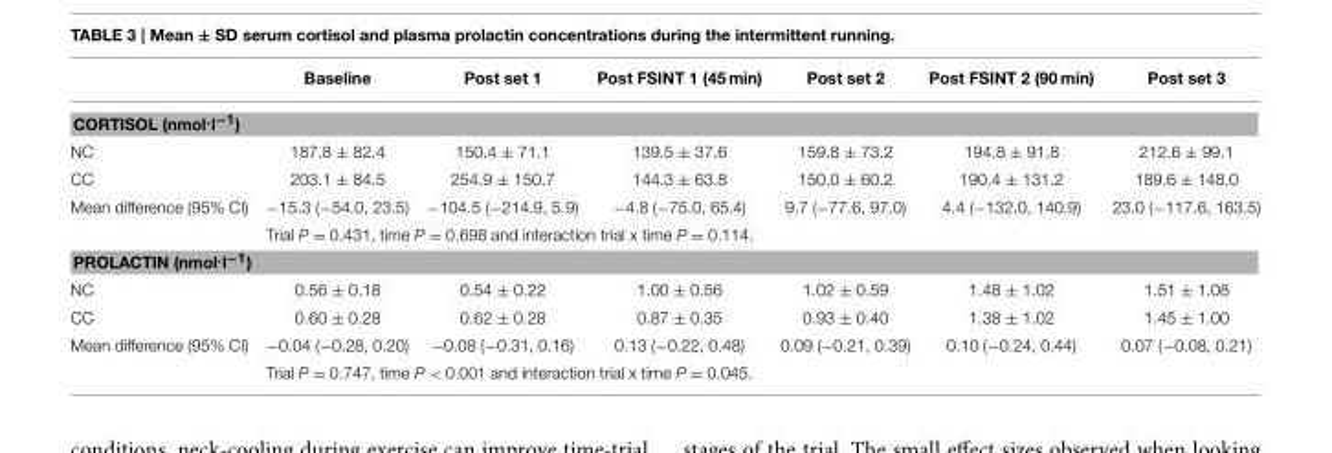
<table><thead><tr><td></td><td>Baseline</td><td>Post set 1</td><td>Post FSINT 1 (45 min)</td><td>Post set 2</td><td>Post FSINT 2 (90 min)</td><td>Post set 3</td></tr></thead><tbody><tr><td colspan="7">CORTISOL (nmol.l−1)</td></tr><tr><td>NC</td><td>187.8 ± 82.4</td><td>150.4 ± 71.1</td><td>139.5 ± 37.6</td><td>159.8 ± 73.2</td><td>194.8 ± 91.8</td><td>212.6 ± 99.1</td></tr><tr><td>CC</td><td>203.1 ± 84.5</td><td>254.9 ± 150.7</td><td>144.3 ± 63.8</td><td>150.0 ± 60.2</td><td>190.4 ± 131.2</td><td>189.6 ± 148.0</td></tr><tr><td rowspan="2">Mean difference (95% CI)</td><td>−15.3 (−54.0, 23.5)</td><td>−104.5 (−214.9, 5.9)</td><td>−4.8 (−75.0, 65.4)</td><td>9.7 (−77.6, 97.0)</td><td>4.4 (−132.0, 140.9)</td><td>23.0 (−117.6, 163.5)</td></tr><tr><td colspan="6">Trial P = 0.431, time P = 0.698 and interaction trial x time P = 0.114.</td></tr><tr><td colspan="7">PROLACTIN (nmol.l−1)</td></tr><tr><td>NC</td><td>0.56 ± 0.18</td><td>0.54 ± 0.22</td><td>1.00 ± 0.56</td><td>1.02 ± 0.59</td><td>1.48 ± 1.02</td><td>1.51 ± 1.08</td></tr><tr><td>CC</td><td>0.60 ± 0.28</td><td>0.62 ± 0.28</td><td>0.87 ± 0.35</td><td>0.93 ± 0.40</td><td>1.38 ± 1.02</td><td>1.45 ± 1.00</td></tr><tr><td rowspan="2">Mean difference (95% CI)</td><td>−0.04 (−0.28, 0.20)</td><td>−0.08 (−0.31, 0.16)</td><td>0.13 (−0.22, 0.48)</td><td>0.09 (−0.21, 0.39)</td><td>0.10 (−0.24, 0.44)</td><td>0.07 (−0.08, 0.21)</td></tr><tr><td colspan="6">Trial P = 0.747, time P &lt; 0.001 and interaction trial x time P = 0.045.</td></tr></tbody></table>